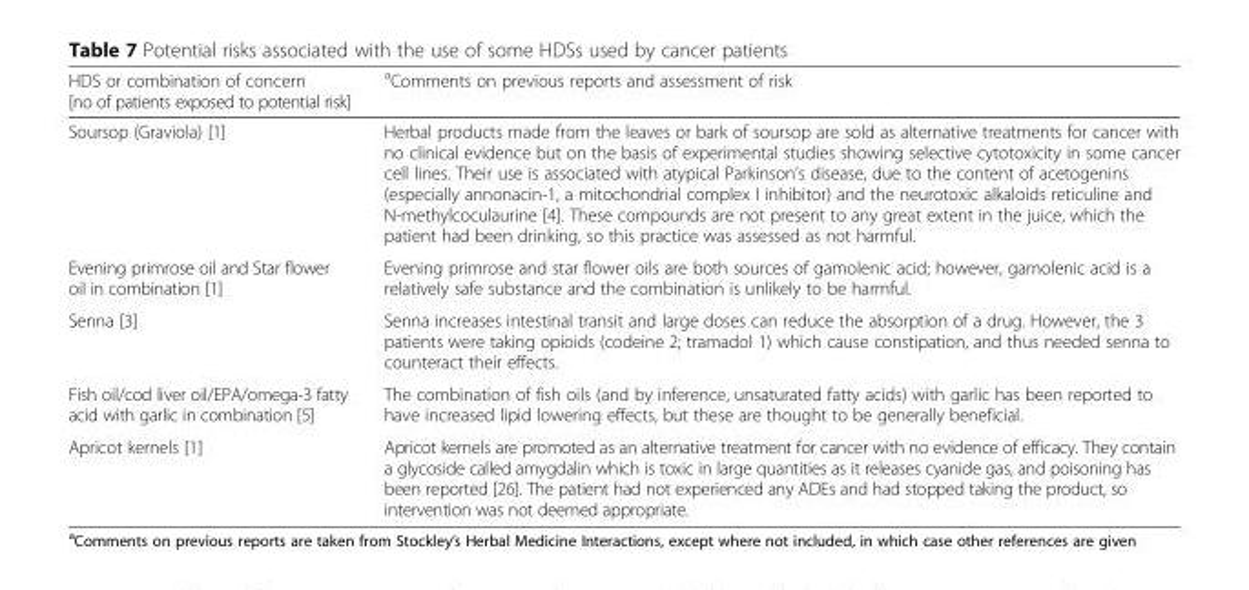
<table><thead><tr><td>HDS or combination of concern [no of patients exposed to potential risk]</td><td><sup>a</sup>Comments on previous reports and assessment of risk</td></tr></thead><tbody><tr><td>Soursop (Graviola) [1]</td><td>Herbal products made from the leaves or bark of soursop are sold as alternative treatments for cancer with no clinical evidence but on the basis of experimental studies showing selective cytotoxicity in some cancer cell lines. Their use is associated with atypical Parkinson’s disease, due to the content of acetogenins (especially annonacin-1, a mitochondrial complex I inhibitor) and the neurotoxic alkaloids reticuline and N-methylcoculaurine [4]. These compounds are not present to any great extent in the juice, which the patient had been drinking, so this practice was assessed as not harmful.</td></tr><tr><td>Evening primrose oil and Star flower oil in combination [1]</td><td>Evening primrose and star flower oils are both sources of gamolenic acid; however, gamolenic acid is a relatively safe substance and the combination is unlikely to be harmful.</td></tr><tr><td>Senna [3]</td><td>Senna increases intestinal transit and large doses can reduce the absorption of a drug. However, the 3 patients were taking opioids (codeine 2; tramadol 1) which cause constipation, and thus needed senna to counteract their effects.</td></tr><tr><td>Fish oil/cod liver oil/EPA/omega-3 fatty acid with garlic in combination [5]</td><td>The combination of fish oils (and by inference, unsaturated fatty acids) with garlic has been reported to have increased lipid lowering effects, but these are thought to be generally beneficial.</td></tr><tr><td>Apricot kernels [1]</td><td>Apricot kernels are promoted as an alternative treatment for cancer with no evidence of efficacy. They contain a glycoside called amygdalin which is toxic in large quantities as it releases cyanide gas, and poisoning has been reported [26]. The patient had not experienced any ADEs and had stopped taking the product, so intervention was not deemed appropriate.</td></tr></tbody></table>